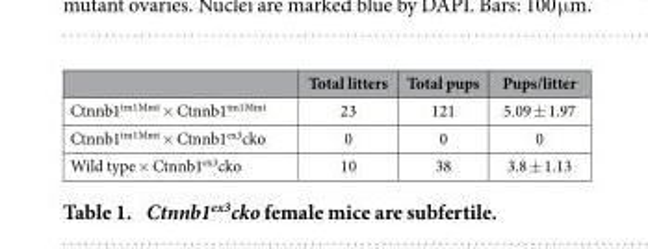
<table><thead><tr><td></td><td>Total litters</td><td>Total pups</td><td>Pups/litter</td></tr></thead><tbody><tr><td>Ctnnb1<sup>tm1Mmt</sup> × Ctnnb1<sup>tm1Mmt</sup></td><td>23</td><td>121</td><td>5.09 ± 1.97</td></tr><tr><td>Ctnnb1<sup>tm1Mmt</sup> × Ctnnb1<sup>ex3</sup>cko</td><td>0</td><td>0</td><td>0</td></tr><tr><td>Wild type × Ctnnb1<sup>ex3</sup>cko</td><td>10</td><td>38</td><td>3.8 ± 1.13</td></tr></tbody></table>